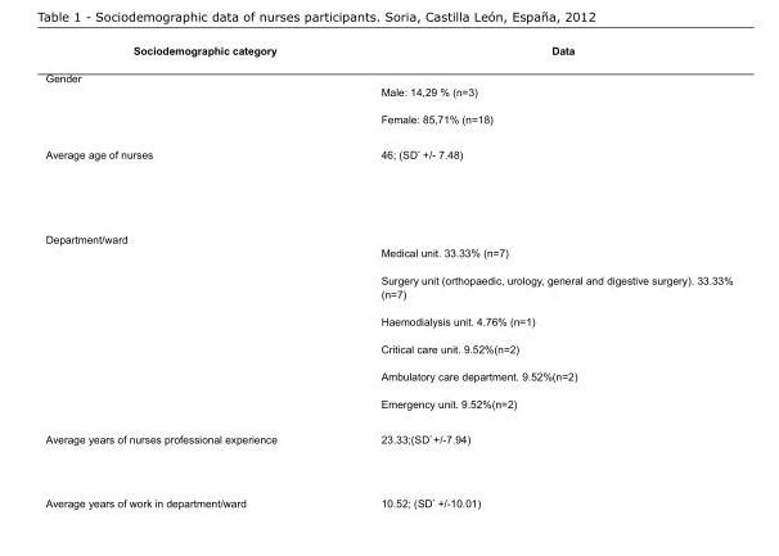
<table><tbody><tr><td>Sociodemographic category</td><td>Data</td></tr><tr><td>Gender</td><td>Male: 14,29 % (n=3) Female: 85,71% (n=18)</td></tr><tr><td>Average age of nurses</td><td>46; (SD* +/- 7.48)</td></tr><tr><td>Department/ward</td><td>Medical unit. 33.33% (n=7) Surgery unit (orthopaedic, urology, general and digestive surgery). 33.33% (n=7) Haemodialysis unit. 4.76% (n=1) Critical care unit. 9.52%(n=2) Ambulatory care department. 9.52%(n=2) Emergency unit. 9.52%(n=2)</td></tr><tr><td>Average years of nurses professional experience</td><td>23.33;(SD* +/-7.94)</td></tr><tr><td>Average years of work in department/ward</td><td>10.52; (SD* +/-10.01)</td></tr></tbody></table>